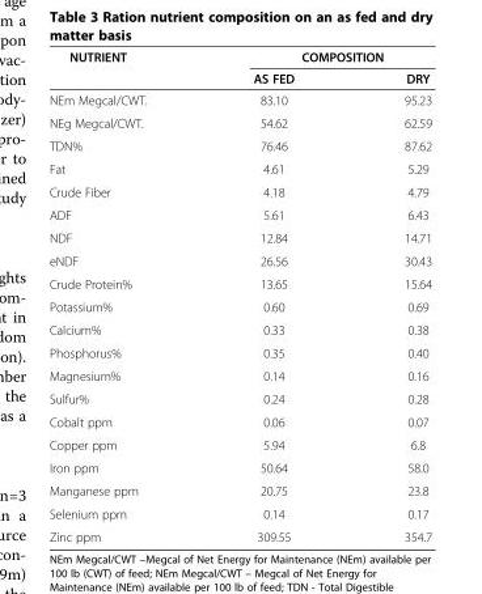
<table><thead><tr><td rowspan="2">NUTRIENT</td><td colspan="2">COMPOSITION</td></tr><tr><td>AS FED</td><td>DRY</td></tr></thead><tbody><tr><td>NEm Megcal/CWT.</td><td>83.10</td><td>95.23</td></tr><tr><td>NEg Megcal/CWT.</td><td>54.62</td><td>62.59</td></tr><tr><td>TDN%</td><td>76.46</td><td>87.62</td></tr><tr><td>Fat</td><td>4.61</td><td>5.29</td></tr><tr><td>Crude Fiber</td><td>4.18</td><td>4.79</td></tr><tr><td>ADF</td><td>5.61</td><td>6.43</td></tr><tr><td>NDF</td><td>12.84</td><td>14.71</td></tr><tr><td>eNDF</td><td>26.56</td><td>30.43</td></tr><tr><td>Crude Protein%</td><td>13.65</td><td>15.64</td></tr><tr><td>Potassium%</td><td>0.60</td><td>0.69</td></tr><tr><td>Calcium%</td><td>0.33</td><td>0.38</td></tr><tr><td>Phosphorus%</td><td>0.35</td><td>0.40</td></tr><tr><td>Magnesium%</td><td>0.14</td><td>0.16</td></tr><tr><td>Sulfur%</td><td>0.24</td><td>0.28</td></tr><tr><td>Cobalt ppm</td><td>0.06</td><td>0.07</td></tr><tr><td>Copper ppm</td><td>5.94</td><td>6.8</td></tr><tr><td>Iron ppm</td><td>50.64</td><td>58.0</td></tr><tr><td>Manganese ppm</td><td>20.75</td><td>23.8</td></tr><tr><td>Selenium ppm</td><td>0.14</td><td>0.17</td></tr><tr><td>Zinc ppm</td><td>309.55</td><td>354.7</td></tr></tbody></table>